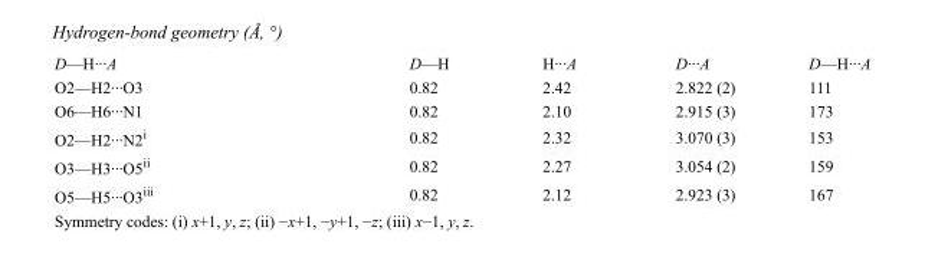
<table><tbody><tr><td>D—H···A</td><td>D—H</td><td>H···A</td><td>D···A</td><td>D—H···A</td></tr><tr><td>O2—H2···O3</td><td>0.82</td><td>2.42</td><td>2.822 (2)</td><td>111</td></tr><tr><td>O6—H6···N1</td><td>0.82</td><td>2.10</td><td>2.915 (3)</td><td>173</td></tr><tr><td>O2—H2···N2<sup>i</sup></td><td>0.82</td><td>2.32</td><td>3.070 (3)</td><td>153</td></tr><tr><td>O3—H3···O5<sup>ii</sup></td><td>0.82</td><td>2.27</td><td>3.054 (2)</td><td>159</td></tr><tr><td>O5—H5···O3<sup>iii</sup></td><td>0.82</td><td>2.12</td><td>2.923 (3)</td><td>167</td></tr></tbody></table>